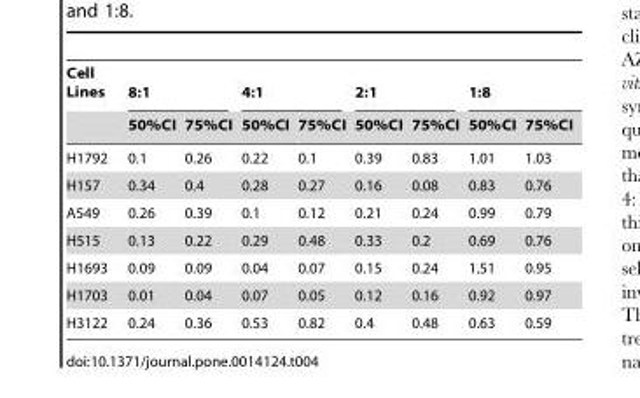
<table><thead><tr><td rowspan="2">Cell Lines</td><td colspan="2">8:1</td><td colspan="2">4:1</td><td colspan="2">2:1</td><td colspan="2">1:8</td></tr><tr><td>50%CI</td><td>75%CI</td><td>50%CI</td><td>75%CI</td><td>50%CI</td><td>75%CI</td><td>50%CI</td><td>75%CI</td></tr></thead><tbody><tr><td>H1792</td><td>0.1</td><td>0.26</td><td>0.22</td><td>0.1</td><td>0.39</td><td>0.83</td><td>1.01</td><td>1.03</td></tr><tr><td>H157</td><td>0.34</td><td>0.4</td><td>0.28</td><td>0.27</td><td>0.16</td><td>0.08</td><td>0.83</td><td>0.76</td></tr><tr><td>A549</td><td>0.26</td><td>0.39</td><td>0.1</td><td>0.12</td><td>0.21</td><td>0.24</td><td>0.99</td><td>0.79</td></tr><tr><td>H515</td><td>0.13</td><td>0.22</td><td>0.29</td><td>0.48</td><td>0.33</td><td>0.2</td><td>0.69</td><td>0.76</td></tr><tr><td>H1693</td><td>0.09</td><td>0.09</td><td>0.04</td><td>0.07</td><td>0.15</td><td>0.24</td><td>1.51</td><td>0.95</td></tr><tr><td>H1703</td><td>0.01</td><td>0.04</td><td>0.07</td><td>0.05</td><td>0.12</td><td>0.16</td><td>0.92</td><td>0.97</td></tr><tr><td>H3122</td><td>0.24</td><td>0.36</td><td>0.53</td><td>0.82</td><td>0.4</td><td>0.48</td><td>0.63</td><td>0.59</td></tr></tbody></table>